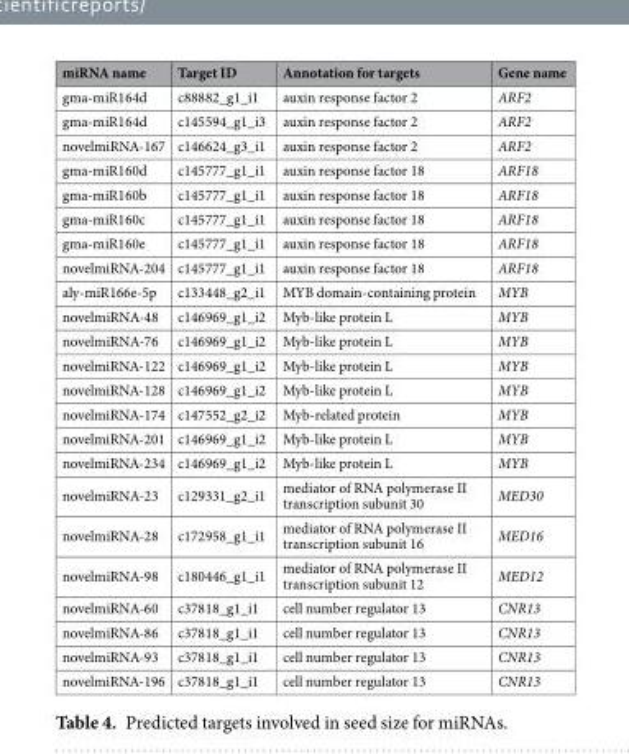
<table><thead><tr><td>miRNA name</td><td>Target ID</td><td>Annotation for targets</td><td>Gene name</td></tr></thead><tbody><tr><td>gma-miR164d</td><td>c88882_g1_i1</td><td>auxin response factor 2</td><td>ARF2</td></tr><tr><td>gma-miR164d</td><td>c145594_g1_i3</td><td>auxin response factor 2</td><td>ARF2</td></tr><tr><td>novelmiRNA-167</td><td>c146624_g3_i1</td><td>auxin response factor 2</td><td>ARF2</td></tr><tr><td>gma-miR160d</td><td>c145777_g1_i1</td><td>auxin response factor 18</td><td>ARF18</td></tr><tr><td>gma-miR160b</td><td>c145777_g1_i1</td><td>auxin response factor 18</td><td>ARF18</td></tr><tr><td>gma-miR160c</td><td>c145777_g1_i1</td><td>auxin response factor 18</td><td>ARF18</td></tr><tr><td>gma-miR160e</td><td>c145777_g1_i1</td><td>auxin response factor 18</td><td>ARF18</td></tr><tr><td>novelmiRNA-204</td><td>c145777_g1_i1</td><td>auxin response factor 18</td><td>ARF18</td></tr><tr><td>aly-miR166e-5p</td><td>c133448_g2_i1</td><td>MYB domain-containing protein</td><td>MYB</td></tr><tr><td>novelmiRNA-48</td><td>c146969_g1_i2</td><td>Myb-like protein L</td><td>MYB</td></tr><tr><td>novelmiRNA-76</td><td>c146969_g1_i2</td><td>Myb-like protein L</td><td>MYB</td></tr><tr><td>novelmiRNA-122</td><td>c146969_g1_i2</td><td>Myb-like protein L</td><td>MYB</td></tr><tr><td>novelmiRNA-128</td><td>c146969_g1_i2</td><td>Myb-like protein L</td><td>MYB</td></tr><tr><td>novelmiRNA-174</td><td>c147552_g2_i2</td><td>Myb-related protein</td><td>MYB</td></tr><tr><td>novelmiRNA-201</td><td>c146969_g1_i2</td><td>Myb-like protein L</td><td>MYB</td></tr><tr><td>novelmiRNA-234</td><td>c146969_g1_i2</td><td>Myb-like protein L</td><td>MYB</td></tr><tr><td>novelmiRNA-23</td><td>c129331_g2_i1</td><td>mediator of RNA polymerase II transcription subunit 30</td><td>MED30</td></tr><tr><td>novelmiRNA-28</td><td>c172958_g1_i1</td><td>mediator of RNA polymerase II transcription subunit 16</td><td>MED16</td></tr><tr><td>novelmiRNA-98</td><td>c180446_g1_i1</td><td>mediator of RNA polymerase II transcription subunit 12</td><td>MED12</td></tr><tr><td>novelmiRNA-60</td><td>c37818_g1_i1</td><td>cell number regulator 13</td><td>CNR13</td></tr><tr><td>novelmiRNA-86</td><td>c37818_g1_i1</td><td>cell number regulator 13</td><td>CNR13</td></tr><tr><td>novelmiRNA-93</td><td>c37818_g1_i1</td><td>cell number regulator 13</td><td>CNR13</td></tr><tr><td>novelmiRNA-196</td><td>c37818_g1_i1</td><td>cell number regulator 13</td><td>CNR13</td></tr></tbody></table>